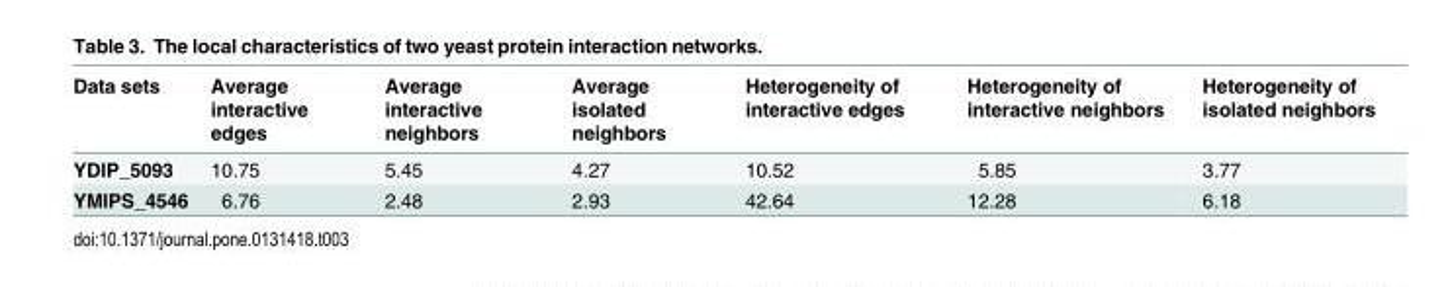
<table><thead><tr><td>Data sets</td><td>Average interactive edges</td><td>Average interactive neighbors</td><td>Average isolated neighbors</td><td>Heterogeneity of interactive edges</td><td>Heterogeneity of interactive neighbors</td><td>Heterogeneity of isolated neighbors</td></tr></thead><tbody><tr><td>YDIP_5093</td><td>10.75</td><td>5.45</td><td>4.27</td><td>10.52</td><td>5.85</td><td>3.77</td></tr><tr><td>YMIPS_4546</td><td>6.76</td><td>2.48</td><td>2.93</td><td>42.64</td><td>12.28</td><td>6.18</td></tr></tbody></table>